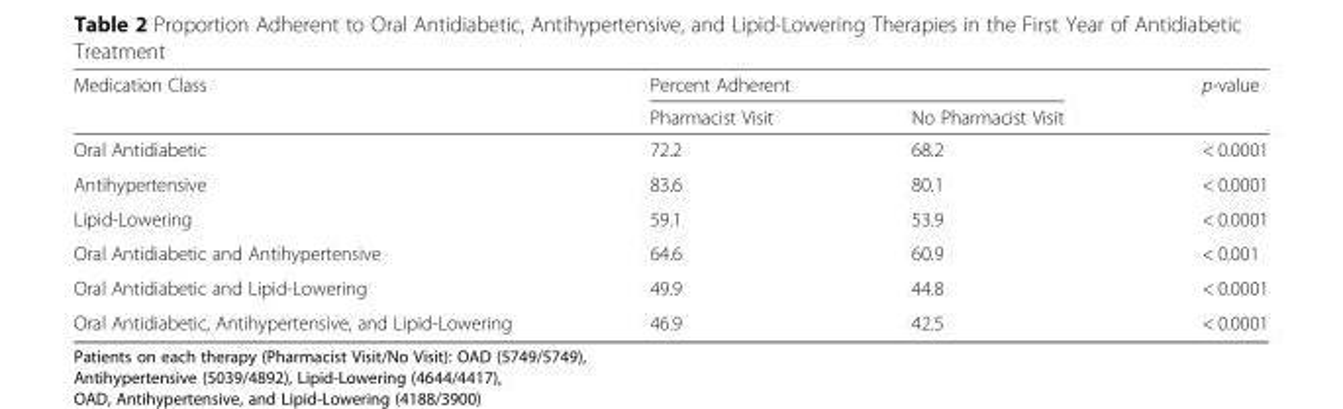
<table><thead><tr><td rowspan="2">Medication Class</td><td colspan="2">Percent Adherent</td><td rowspan="2">p-value</td></tr><tr><td>Pharmacist Visit</td><td>No Pharmacist Visit</td></tr></thead><tbody><tr><td>Oral Antidiabetic</td><td>72.2</td><td>68.2</td><td>&lt; 0.0001</td></tr><tr><td>Antihypertensive</td><td>83.6</td><td>80.1</td><td>&lt; 0.0001</td></tr><tr><td>Lipid-Lowering</td><td>59.1</td><td>53.9</td><td>&lt; 0.0001</td></tr><tr><td>Oral Antidiabetic and Antihypertensive</td><td>64.6</td><td>60.9</td><td>&lt; 0.001</td></tr><tr><td>Oral Antidiabetic and Lipid-Lowering</td><td>49.9</td><td>44.8</td><td>&lt; 0.0001</td></tr><tr><td>Oral Antidiabetic, Antihypertensive, and Lipid-Lowering</td><td>46.9</td><td>42.5</td><td>&lt; 0.0001</td></tr></tbody></table>